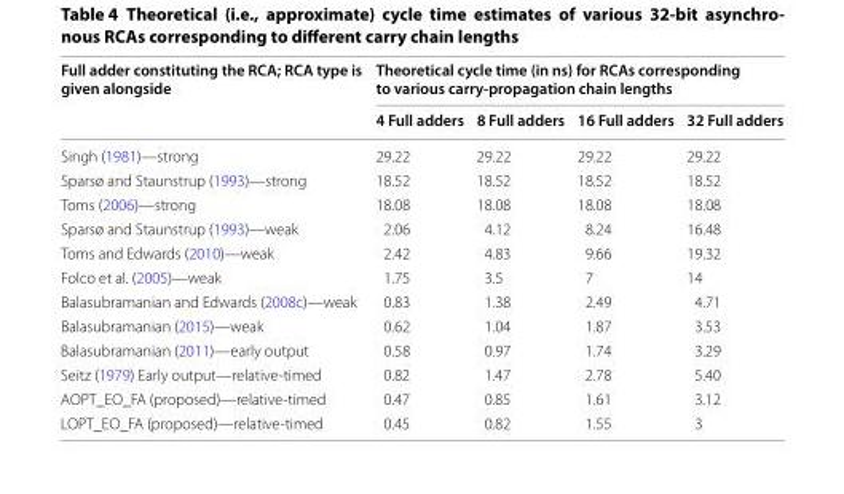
<table><thead><tr><td rowspan="2">Full adder constituting the RCA; RCA type is given alongside</td><td colspan="4">Theoretical cycle time (in ns) for RCAs corresponding to various carry‑propagation chain lengths</td></tr><tr><td>4 Full adders</td><td>8 Full adders</td><td>16 Full adders</td><td>32 Full adders</td></tr></thead><tbody><tr><td>Singh (1981)—strong</td><td>29.22</td><td>29.22</td><td>29.22</td><td>29.22</td></tr><tr><td>Sparsø and Staunstrup (1993)—strong</td><td>18.52</td><td>18.52</td><td>18.52</td><td>18.52</td></tr><tr><td>Toms (2006)—strong</td><td>18.08</td><td>18.08</td><td>18.08</td><td>18.08</td></tr><tr><td>Sparsø and Staunstrup (1993)—weak</td><td>2.06</td><td>4.12</td><td>8.24</td><td>16.48</td></tr><tr><td>Toms and Edwards (2010)—weak</td><td>2.42</td><td>4.83</td><td>9.66</td><td>19.32</td></tr><tr><td>Folco et al. (2005)—weak</td><td>1.75</td><td>3.5</td><td>7</td><td>14</td></tr><tr><td>Balasubramanian and Edwards (2008c)—weak</td><td>0.83</td><td>1.38</td><td>2.49</td><td>4.71</td></tr><tr><td>Balasubramanian (2015)—weak</td><td>0.62</td><td>1.04</td><td>1.87</td><td>3.53</td></tr><tr><td>Balasubramanian (2011)—early output</td><td>0.58</td><td>0.97</td><td>1.74</td><td>3.29</td></tr><tr><td>Seitz (1979) Early output—relative-timed</td><td>0.82</td><td>1.47</td><td>2.78</td><td>5.40</td></tr><tr><td>AOPT_EO_FA (proposed)—relative-timed</td><td>0.47</td><td>0.85</td><td>1.61</td><td>3.12</td></tr><tr><td>LOPT_EO_FA (proposed)—relative-timed</td><td>0.45</td><td>0.82</td><td>1.55</td><td>3</td></tr></tbody></table>